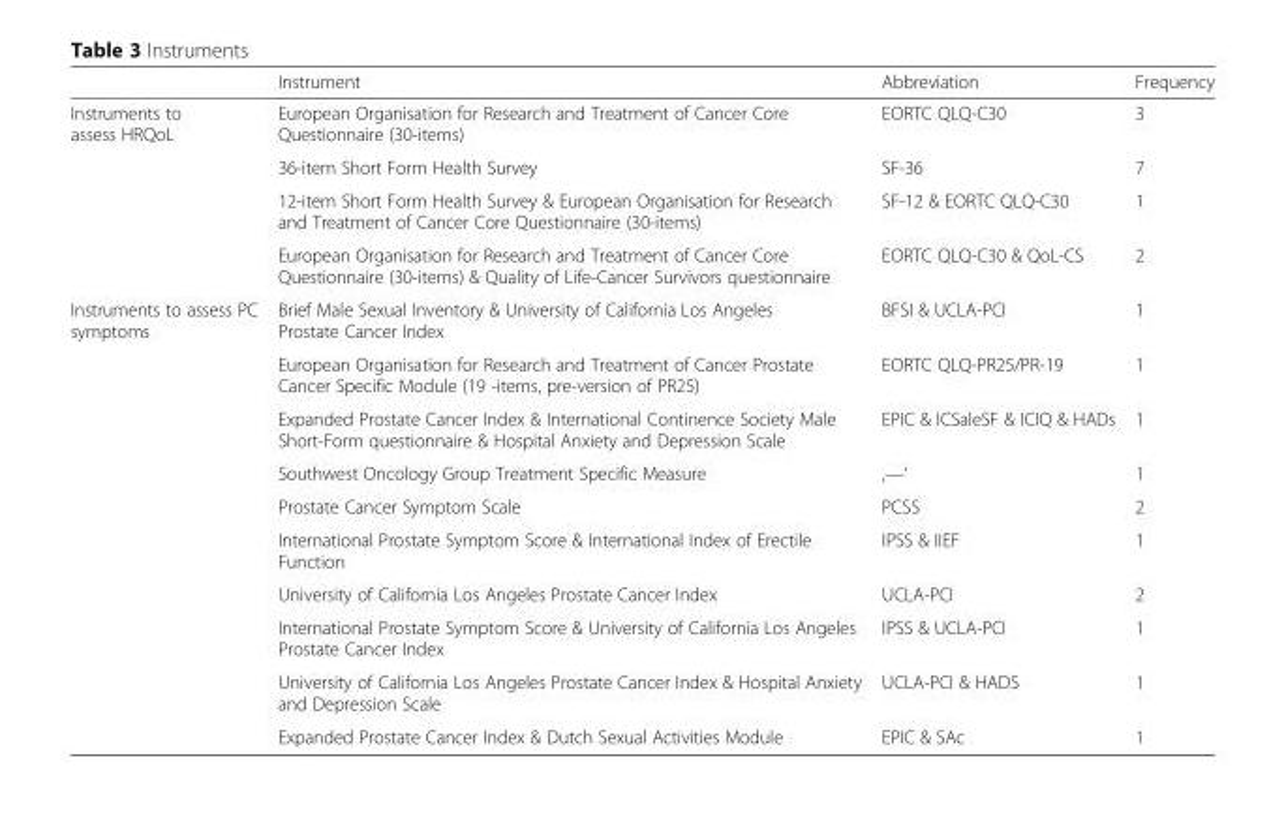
<table><thead><tr><td></td><td>Instrument</td><td>Abbreviation</td><td>Frequency</td></tr></thead><tbody><tr><td rowspan="4">Instruments to assess HRQoL</td><td>European Organisation for Research and Treatment of Cancer Core Questionnaire (30-items)</td><td>EORTC QLQ-C30</td><td>3</td></tr><tr><td>36-item Short Form Health Survey</td><td>SF-36</td><td>7</td></tr><tr><td>12-item Short Form Health Survey &amp; European Organisation for Research and Treatment of Cancer Core Questionnaire (30-items)</td><td>SF-12 &amp; EORTC QLQ-C30</td><td>1</td></tr><tr><td>European Organisation for Research and Treatment of Cancer Core Questionnaire (30-items) &amp; Quality of Life-Cancer Survivors questionnaire</td><td>EORTC QLQ-C30 &amp; QoL-CS</td><td>2</td></tr><tr><td rowspan="10">Instruments to assess PC symptoms</td><td>Brief Male Sexual Inventory &amp; University of California Los Angeles Prostate Cancer Index</td><td>BFSI &amp; UCLA-PCI</td><td>1</td></tr><tr><td>European Organisation for Research and Treatment of Cancer Prostate Cancer Specific Module (19 -items, pre-version of PR25)</td><td>EORTC QLQ-PR25/PR-19</td><td>1</td></tr><tr><td>Expanded Prostate Cancer Index &amp; International Continence Society Male Short-Form questionnaire &amp; Hospital Anxiety and Depression Scale</td><td>EPIC &amp; ICSaleSF &amp; ICIQ &amp; HADs</td><td>1</td></tr><tr><td>Southwest Oncology Group Treatment Specific Measure</td><td>‚—‘</td><td>1</td></tr><tr><td>Prostate Cancer Symptom Scale</td><td>PCSS</td><td>2</td></tr><tr><td>International Prostate Symptom Score &amp; International Index of Erectile Function</td><td>IPSS &amp; IIEF</td><td>1</td></tr><tr><td>University of California Los Angeles Prostate Cancer Index</td><td>UCLA-PCI</td><td>2</td></tr><tr><td>International Prostate Symptom Score &amp; University of California Los Angeles Prostate Cancer Index</td><td>IPSS &amp; UCLA-PCI</td><td>1</td></tr><tr><td>University of California Los Angeles Prostate Cancer Index &amp; Hospital Anxiety and Depression Scale</td><td>UCLA-PCI &amp; HADS</td><td>1</td></tr><tr><td>Expanded Prostate Cancer Index &amp; Dutch Sexual Activities Module</td><td>EPIC &amp; SAc</td><td>1</td></tr></tbody></table>